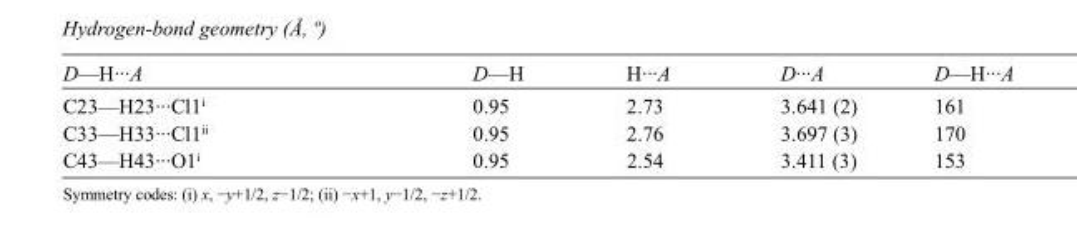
<table><tbody><tr><td>D—H···A</td><td>D—H</td><td>H···A</td><td>D···A</td><td>D—H···A</td></tr><tr><td>C23—H23···Cl1<sup>i</sup></td><td>0.95</td><td>2.73</td><td>3.641 (2)</td><td>161</td></tr><tr><td>C33—H33···Cl1<sup>ii</sup></td><td>0.95</td><td>2.76</td><td>3.697 (3)</td><td>170</td></tr><tr><td>C43—H43···O1<sup>i</sup></td><td>0.95</td><td>2.54</td><td>3.411 (3)</td><td>153</td></tr></tbody></table>